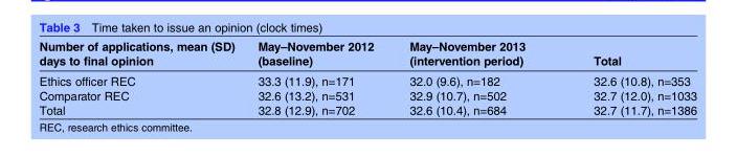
<table><thead><tr><td>Number of applications, mean (SD) days to final opinion</td><td>May–November 2012 (baseline)</td><td>May–November 2013 (intervention period)</td><td>Total</td></tr></thead><tbody><tr><td>Ethics officer REC</td><td>33.3 (11.9), n=171</td><td>32.0 (9.6), n=182</td><td>32.6 (10.8), n=353</td></tr><tr><td>Comparator REC</td><td>32.6 (13.2), n=531</td><td>32.9 (10.7), n=502</td><td>32.7 (12.0), n=1033</td></tr><tr><td>Total</td><td>32.8 (12.9), n=702</td><td>32.6 (10.4), n=684</td><td>32.7 (11.7), n=1386</td></tr></tbody></table>